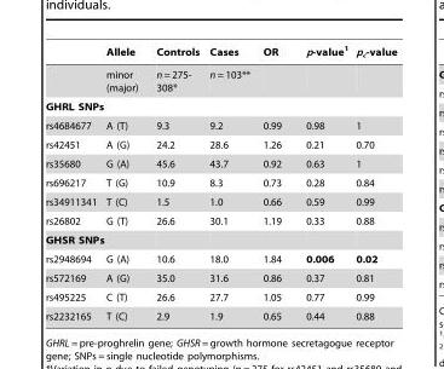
<table><thead><tr><td></td><td>Allele</td><td>Controls</td><td>Cases</td><td>OR</td><td>p-value<sup>1</sup></td><td>p<sub>c</sub>-value</td></tr></thead><tbody><tr><td></td><td>minor (major)</td><td>n = 275- 308*</td><td>n = 103**</td><td></td><td></td><td></td></tr><tr><td colspan="7">GHRL SNPs</td></tr><tr><td>rs4684677</td><td>A (T)</td><td>9.3</td><td>9.2</td><td>0.99</td><td>0.98</td><td>1</td></tr><tr><td>rs42451</td><td>A (G)</td><td>24.2</td><td>28.6</td><td>1.26</td><td>0.21</td><td>0.70</td></tr><tr><td>rs35680</td><td>G (A)</td><td>45.6</td><td>43.7</td><td>0.92</td><td>0.63</td><td>1</td></tr><tr><td>rs696217</td><td>T (G)</td><td>10.9</td><td>8.3</td><td>0.73</td><td>0.28</td><td>0.84</td></tr><tr><td>rs34911341</td><td>T (C)</td><td>1.5</td><td>1.0</td><td>0.66</td><td>0.59</td><td>0.99</td></tr><tr><td>rs26802</td><td>G (T)</td><td>26.6</td><td>30.1</td><td>1.19</td><td>0.33</td><td>0.88</td></tr><tr><td colspan="7">GHSR SNPs</td></tr><tr><td>rs2948694</td><td>G (A)</td><td>10.6</td><td>18.0</td><td>1.84</td><td>0.006</td><td>0.02</td></tr><tr><td>rs572169</td><td>A (G)</td><td>35.0</td><td>31.6</td><td>0.86</td><td>0.37</td><td>0.81</td></tr><tr><td>rs495225</td><td>C (T)</td><td>26.6</td><td>27.7</td><td>1.05</td><td>0.77</td><td>0.99</td></tr><tr><td>rs2232165</td><td>T (C)</td><td>2.9</td><td>1.9</td><td>0.65</td><td>0.44</td><td>0.88</td></tr></tbody></table>